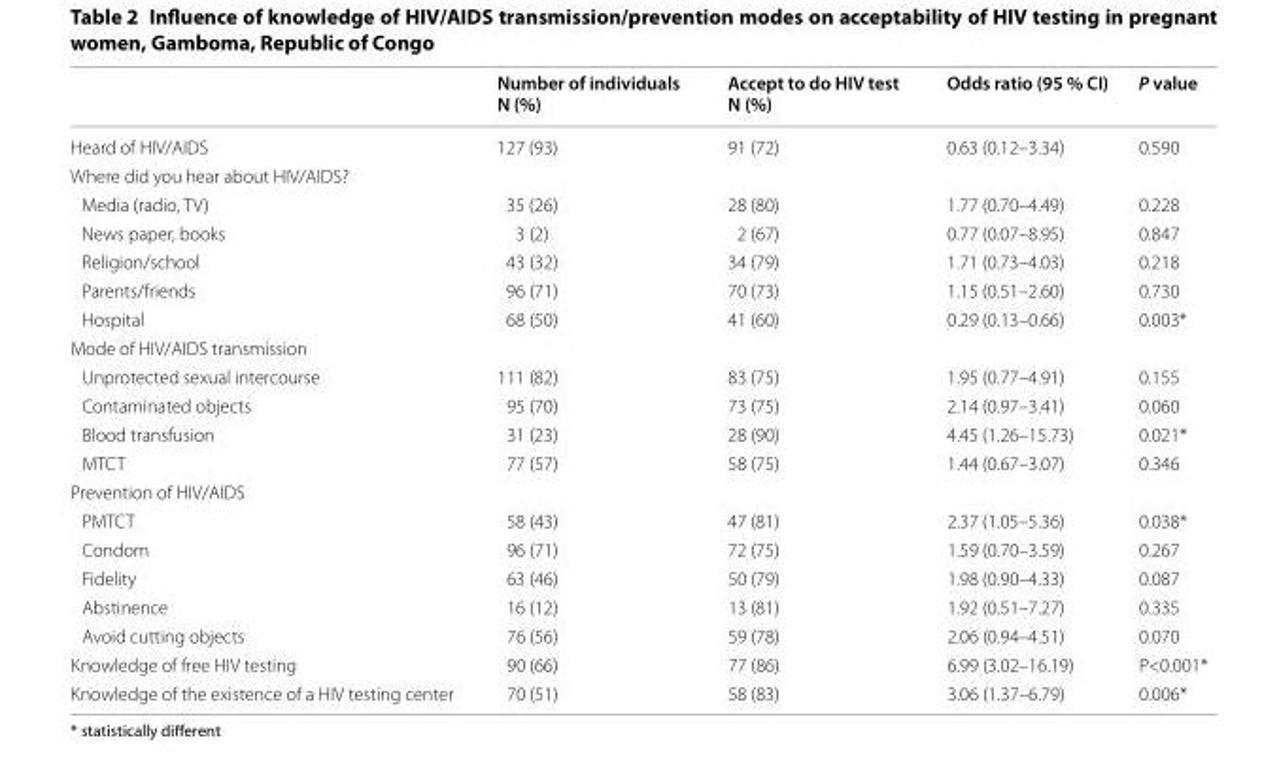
<table><thead><tr><td></td><td>Number of individuals N (%)</td><td>Accept to do HIV test N (%)</td><td>Odds ratio (95 % CI)</td><td>P value</td></tr></thead><tbody><tr><td>Heard of HIV/AIDS</td><td>127 (93)</td><td>91 (72)</td><td>0.63 (0.12–3.34)</td><td>0.590</td></tr><tr><td colspan="5">Where did you hear about HIV/AIDS?</td></tr><tr><td>Media (radio, TV)</td><td>35 (26)</td><td>28 (80)</td><td>1.77 (0.70–4.49)</td><td>0.228</td></tr><tr><td>News paper, books</td><td>3 (2)</td><td>2 (67)</td><td>0.77 (0.07–8.95)</td><td>0.847</td></tr><tr><td>Religion/school</td><td>43 (32)</td><td>34 (79)</td><td>1.71 (0.73–4.03)</td><td>0.218</td></tr><tr><td>Parents/friends</td><td>96 (71)</td><td>70 (73)</td><td>1.15 (0.51–2.60)</td><td>0.730</td></tr><tr><td>Hospital</td><td>68 (50)</td><td>41 (60)</td><td>0.29 (0.13–0.66)</td><td>0.003*</td></tr><tr><td colspan="5">Mode of HIV/AIDS transmission</td></tr><tr><td>Unprotected sexual intercourse</td><td>111 (82)</td><td>83 (75)</td><td>1.95 (0.77–4.91)</td><td>0.155</td></tr><tr><td>Contaminated objects</td><td>95 (70)</td><td>73 (75)</td><td>2.14 (0.97–3.41)</td><td>0.060</td></tr><tr><td>Blood transfusion</td><td>31 (23)</td><td>28 (90)</td><td>4.45 (1.26–15.73)</td><td>0.021*</td></tr><tr><td>MTCT</td><td>77 (57)</td><td>58 (75)</td><td>1.44 (0.67–3.07)</td><td>0.346</td></tr><tr><td colspan="5">Prevention of HIV/AIDS</td></tr><tr><td>PMTCT</td><td>58 (43)</td><td>47 (81)</td><td>2.37 (1.05–5.36)</td><td>0.038*</td></tr><tr><td>Condom</td><td>96 (71)</td><td>72 (75)</td><td>1.59 (0.70–3.59)</td><td>0.267</td></tr><tr><td>Fidelity</td><td>63 (46)</td><td>50 (79)</td><td>1.98 (0.90–4.33)</td><td>0.087</td></tr><tr><td>Abstinence</td><td>16 (12)</td><td>13 (81)</td><td>1.92 (0.51–7.27)</td><td>0.335</td></tr><tr><td>Avoid cutting objects</td><td>76 (56)</td><td>59 (78)</td><td>2.06 (0.94–4.51)</td><td>0.070</td></tr><tr><td>Knowledge of free HIV testing</td><td>90 (66)</td><td>77 (86)</td><td>6.99 (3.02–16.19)</td><td>P&lt;0.001*</td></tr><tr><td>Knowledge of the existence of a HIV testing center</td><td>70 (51)</td><td>58 (83)</td><td>3.06 (1.37–6.79)</td><td>0.006*</td></tr></tbody></table>